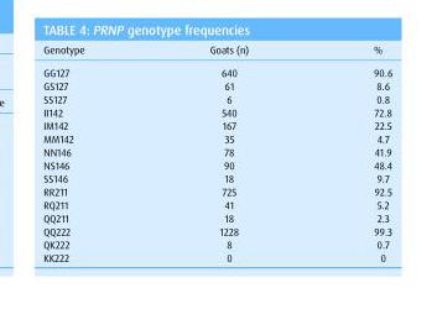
<table><thead><tr><td>Genotype</td><td>Goats (n)</td><td>%</td></tr></thead><tbody><tr><td>GG127</td><td>640</td><td>90.6</td></tr><tr><td>GS127</td><td>61</td><td>8.6</td></tr><tr><td>SS127</td><td>6</td><td>0.8</td></tr><tr><td>II142</td><td>540</td><td>72.8</td></tr><tr><td>IM142</td><td>167</td><td>22.5</td></tr><tr><td>MM142</td><td>35</td><td>4.7</td></tr><tr><td>NN146</td><td>78</td><td>41.9</td></tr><tr><td>NS146</td><td>90</td><td>48.4</td></tr><tr><td>SS146</td><td>18</td><td>9.7</td></tr><tr><td>RR211</td><td>725</td><td>92.5</td></tr><tr><td>RQ211</td><td>41</td><td>5.2</td></tr><tr><td>QQ211</td><td>18</td><td>2.3</td></tr><tr><td>QQ222</td><td>1228</td><td>99.3</td></tr><tr><td>QK222</td><td>8</td><td>0.7</td></tr><tr><td>KK222</td><td>0</td><td>0</td></tr></tbody></table>